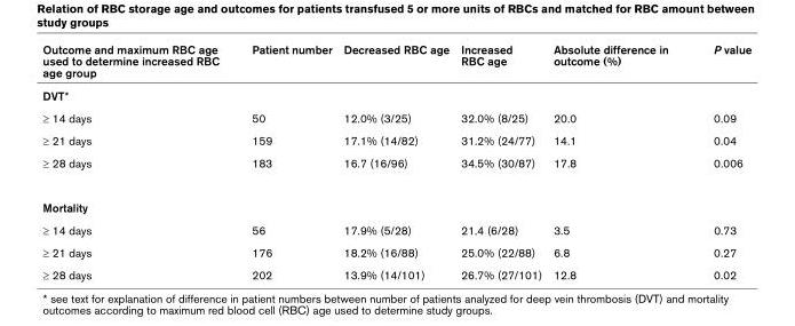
<table><thead><tr><td>Outcome and maximum RBC age used to determine increased RBC age group</td><td>Patient number</td><td>Decreased RBC age</td><td>Increased RBC age</td><td>Absolute difference in outcome (%)</td><td>P value</td></tr></thead><tbody><tr><td colspan="6">DVT*</td></tr><tr><td>≥ 14 days</td><td>50</td><td>12.0% (3/25)</td><td>32.0% (8/25)</td><td>20.0</td><td>0.09</td></tr><tr><td>≥ 21 days</td><td>159</td><td>17.1% (14/82)</td><td>31.2% (24/77)</td><td>14.1</td><td>0.04</td></tr><tr><td>≥ 28 days</td><td>183</td><td>16.7 (16/96)</td><td>34.5% (30/87)</td><td>17.8</td><td>0.006</td></tr><tr><td colspan="6">Mortality</td></tr><tr><td>≥ 14 days</td><td>56</td><td>17.9% (5/28)</td><td>21.4 (6/28)</td><td>3.5</td><td>0.73</td></tr><tr><td>≥ 21 days</td><td>176</td><td>18.2% (16/88)</td><td>25.0% (22/88)</td><td>6.8</td><td>0.27</td></tr><tr><td>≥ 28 days</td><td>202</td><td>13.9% (14/101)</td><td>26.7% (27/101)</td><td>12.8</td><td>0.02</td></tr></tbody></table>